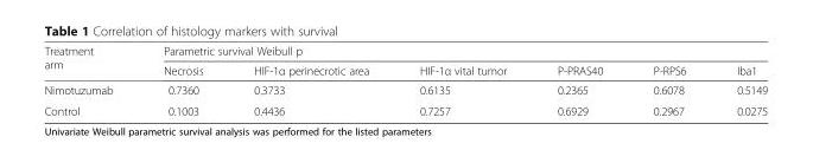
<table><thead><tr><td rowspan="2">Treatment arm</td><td colspan="6">Parametric survival Weibull p</td></tr><tr><td>Necrosis</td><td>HIF-1α perinecrotic area</td><td>HIF-1α vital tumor</td><td>P-PRAS40</td><td>P-RPS6</td><td>Iba1</td></tr></thead><tbody><tr><td>Nimotuzumab</td><td>0.7360</td><td>0.3733</td><td>0.6135</td><td>0.2365</td><td>0.6078</td><td>0.5149</td></tr><tr><td>Control</td><td>0.1003</td><td>0.4436</td><td>0.7257</td><td>0.6929</td><td>0.2967</td><td>0.0275</td></tr></tbody></table>